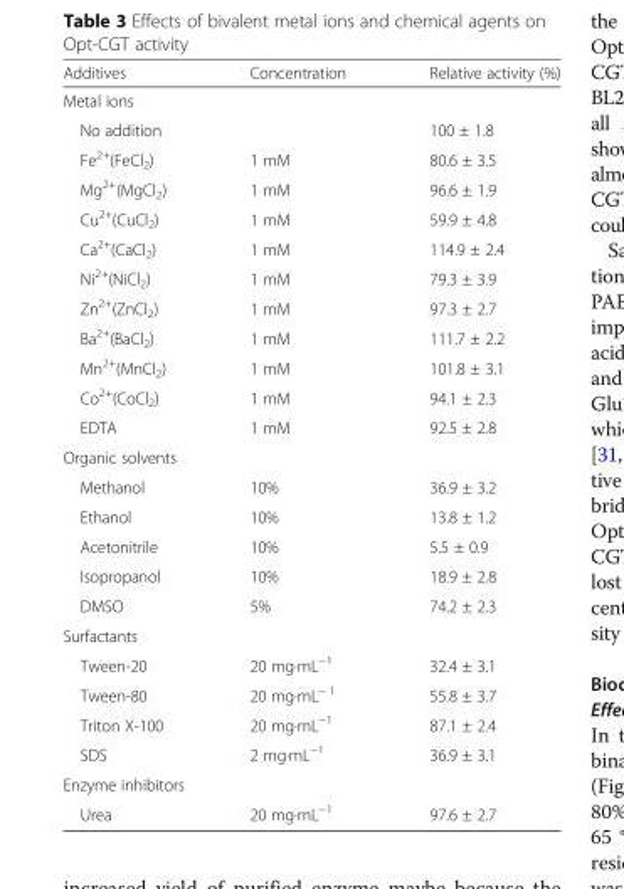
<table><thead><tr><td>Additives</td><td>Concentration</td><td>Relative activity (%)</td></tr></thead><tbody><tr><td colspan="3">Metal ions</td></tr><tr><td>No addition</td><td></td><td>100 ± 1.8</td></tr><tr><td>Fe<sup>2+</sup>(FeCl<sub>2</sub>)</td><td>1 mM</td><td>80.6 ± 3.5</td></tr><tr><td>Mg<sup>2+</sup>(MgCl<sub>2</sub>)</td><td>1 mM</td><td>96.6 ± 1.9</td></tr><tr><td>Cu<sup>2+</sup>(CuCl<sub>2</sub>)</td><td>1 mM</td><td>59.9 ± 4.8</td></tr><tr><td>Ca<sup>2+</sup>(CaCl<sub>2</sub>)</td><td>1 mM</td><td>114.9 ± 2.4</td></tr><tr><td>Ni<sup>2+</sup>(NiCl<sub>2</sub>)</td><td>1 mM</td><td>79.3 ± 3.9</td></tr><tr><td>Zn<sup>2+</sup>(ZnCl<sub>2</sub>)</td><td>1 mM</td><td>97.3 ± 2.7</td></tr><tr><td>Ba<sup>2+</sup>(BaCl<sub>2</sub>)</td><td>1 mM</td><td>111.7 ± 2.2</td></tr><tr><td>Mn<sup>2+</sup>(MnCl<sub>2</sub>)</td><td>1 mM</td><td>101.8 ± 3.1</td></tr><tr><td>Co<sup>2+</sup>(CoCl<sub>2</sub>)</td><td>1 mM</td><td>94.1 ± 2.3</td></tr><tr><td>EDTA</td><td>1 mM</td><td>92.5 ± 2.8</td></tr><tr><td colspan="3">Organic solvents</td></tr><tr><td>Methanol</td><td>10%</td><td>36.9 ± 3.2</td></tr><tr><td>Ethanol</td><td>10%</td><td>13.8 ± 1.2</td></tr><tr><td>Acetonitrile</td><td>10%</td><td>5.5 ± 0.9</td></tr><tr><td>Isopropanol</td><td>10%</td><td>18.9 ± 2.8</td></tr><tr><td>DMSO</td><td>5%</td><td>74.2 ± 2.3</td></tr><tr><td colspan="3">Surfactants</td></tr><tr><td>Tween-20</td><td>20 mg·mL<sup>−1</sup></td><td>32.4 ± 3.1</td></tr><tr><td>Tween-80</td><td>20 mg·mL<sup>− 1</sup></td><td>55.8 ± 3.7</td></tr><tr><td>Triton X-100</td><td>20 mg·mL<sup>−1</sup></td><td>87.1 ± 2.4</td></tr><tr><td>SDS</td><td>2 mg·mL<sup>−1</sup></td><td>36.9 ± 3.1</td></tr><tr><td colspan="3">Enzyme inhibitors</td></tr><tr><td>Urea</td><td>20 mg·mL<sup>−1</sup></td><td>97.6 ± 2.7</td></tr></tbody></table>